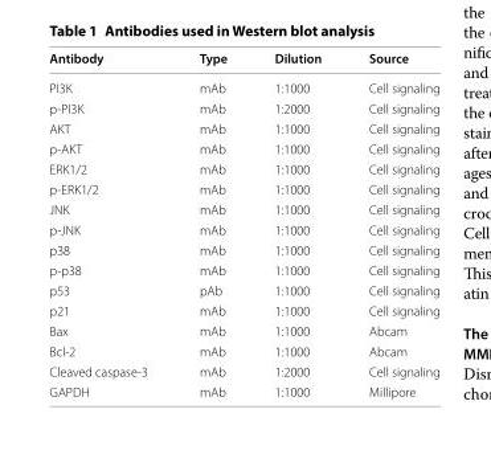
<table><thead><tr><td>Antibody</td><td>Type</td><td>Dilution</td><td>Source</td></tr></thead><tbody><tr><td>PI3K</td><td>mAb</td><td>1:1000</td><td>Cell signaling</td></tr><tr><td>p‑PI3K</td><td>mAb</td><td>1:2000</td><td>Cell signaling</td></tr><tr><td>AKT</td><td>mAb</td><td>1:1000</td><td>Cell signaling</td></tr><tr><td>p‑AKT</td><td>mAb</td><td>1:1000</td><td>Cell signaling</td></tr><tr><td>ERK1/2</td><td>mAb</td><td>1:1000</td><td>Cell signaling</td></tr><tr><td>p‑ERK1/2</td><td>mAb</td><td>1:1000</td><td>Cell signaling</td></tr><tr><td>JNK</td><td>mAb</td><td>1:1000</td><td>Cell signaling</td></tr><tr><td>p‑JNK</td><td>mAb</td><td>1:1000</td><td>Cell signaling</td></tr><tr><td>p38</td><td>mAb</td><td>1:1000</td><td>Cell signaling</td></tr><tr><td>p‑p38</td><td>mAb</td><td>1:1000</td><td>Cell signaling</td></tr><tr><td>p53</td><td>pAb</td><td>1:1000</td><td>Cell signaling</td></tr><tr><td>p21</td><td>mAb</td><td>1:1000</td><td>Cell signaling</td></tr><tr><td>Bax</td><td>mAb</td><td>1:1000</td><td>Abcam</td></tr><tr><td>Bcl‑2</td><td>mAb</td><td>1:1000</td><td>Abcam</td></tr><tr><td>Cleaved caspase‑3</td><td>mAb</td><td>1:2000</td><td>Cell signaling</td></tr><tr><td>GAPDH</td><td>mAb</td><td>1:1000</td><td>Millipore</td></tr></tbody></table>